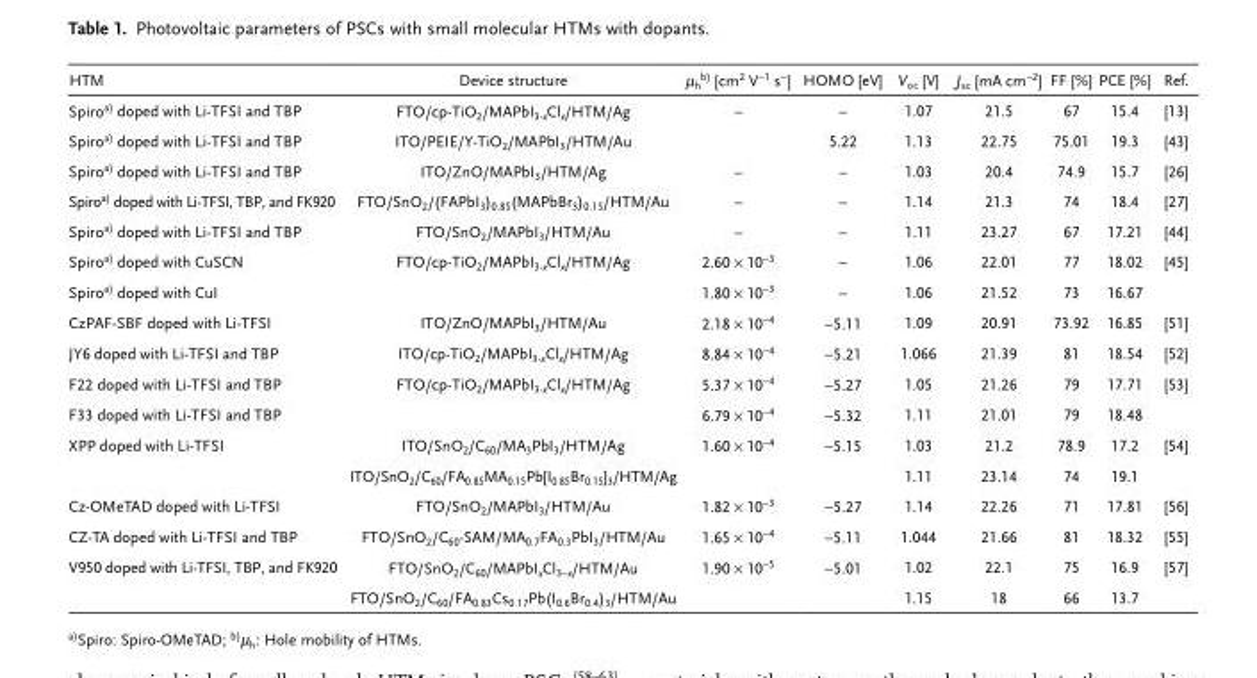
<table><thead><tr><td>HTM</td><td>Device structure</td><td>µ<sub>h</sub>b) [cm<sup>2</sup> V<sup>−1</sup> s<sup>−</sup>]</td><td>HOMO [eV]</td><td>V<sub>oc</sub> [V]</td><td>J<sub>sc</sub> [mA cm<sup>−2</sup>]</td><td>FF [%]</td><td>PCE [%]</td><td>Ref.</td></tr></thead><tbody><tr><td>Spiroa) doped with Li-TFSI and TBP</td><td>FTO/cp-TiO<sub>2</sub>/MAPbI<sub>3-x</sub>Cl<sub>x</sub>/HTM/Ag</td><td>–</td><td>–</td><td>1.07</td><td>21.5</td><td>67</td><td>15.4</td><td>[13]</td></tr><tr><td>Spiroa) doped with Li-TFSI and TBP</td><td>ITO/PEIE/Y-TiO<sub>2</sub>/MAPbI<sub>3</sub>/HTM/Au</td><td></td><td>5.22</td><td>1.13</td><td>22.75</td><td>75.01</td><td>19.3</td><td>[43]</td></tr><tr><td>Spiroa) doped with Li-TFSI and TBP</td><td>ITO/ZnO/MAPbI<sub>3</sub>/HTM/Ag</td><td>–</td><td>–</td><td>1.03</td><td>20.4</td><td>74.9</td><td>15.7</td><td>[26]</td></tr><tr><td>Spiroa) doped with Li-TFSI, TBP, and FK920</td><td>FTO/SnO<sub>2</sub>/(FAPbI<sub>3</sub>)<sub>0.85</sub>(MAPbBr<sub>3</sub>)<sub>0.15</sub>/HTM/Au</td><td>–</td><td>–</td><td>1.14</td><td>21.3</td><td>74</td><td>18.4</td><td>[27]</td></tr><tr><td>Spiroa) doped with Li-TFSI and TBP</td><td>FTO/SnO<sub>2</sub>/MAPbI<sub>3</sub>/HTM/Au</td><td>–</td><td>–</td><td>1.11</td><td>23.27</td><td>67</td><td>17.21</td><td>[44]</td></tr><tr><td>Spiroa) doped with CuSCN</td><td>FTO/cp-TiO<sub>2</sub>/MAPbI<sub>3-x</sub>Cl<sub>x</sub>/HTM/Ag</td><td>2.60 × 10<sup>−3</sup></td><td>–</td><td>1.06</td><td>22.01</td><td>77</td><td>18.02</td><td>[45]</td></tr><tr><td>Spiroa) doped with CuI</td><td></td><td>1.80 × 10<sup>−3</sup></td><td>–</td><td>1.06</td><td>21.52</td><td>73</td><td>16.67</td><td></td></tr><tr><td>CzPAF-SBF doped with Li-TFSI</td><td>ITO/ZnO/MAPbI<sub>3</sub>/HTM/Au</td><td>2.18 × 10<sup>−4</sup></td><td>−5.11</td><td>1.09</td><td>20.91</td><td>73.92</td><td>16.85</td><td>[51]</td></tr><tr><td>JY6 doped with Li-TFSI and TBP</td><td>ITO/cp-TiO<sub>2</sub>/MAPbI<sub>3-x</sub>Cl<sub>x</sub>/HTM/Ag</td><td>8.84 × 10<sup>−4</sup></td><td>−5.21</td><td>1.066</td><td>21.39</td><td>81</td><td>18.54</td><td>[52]</td></tr><tr><td>F22 doped with Li-TFSI and TBP</td><td>FTO/cp-TiO<sub>2</sub>/MAPbI<sub>3-x</sub>Cl<sub>x</sub>/HTM/Ag</td><td>5.37 × 10<sup>−4</sup></td><td>−5.27</td><td>1.05</td><td>21.26</td><td>79</td><td>17.71</td><td>[53]</td></tr><tr><td>F33 doped with Li-TFSI and TBP</td><td></td><td>6.79 × 10<sup>−4</sup></td><td>−5.32</td><td>1.11</td><td>21.01</td><td>79</td><td>18.48</td><td></td></tr><tr><td rowspan="2">XPP doped with Li-TFSI</td><td>ITO/SnO<sub>2</sub>/C<sub>60</sub>/MA<sub>3</sub>PbI<sub>3</sub>/HTM/Ag</td><td>1.60 × 10<sup>−4</sup></td><td>−5.15</td><td>1.03</td><td>21.2</td><td>78.9</td><td>17.2</td><td>[54]</td></tr><tr><td>ITO/SnO<sub>2</sub>/C<sub>60</sub>/FA<sub>0.85</sub>MA<sub>0.15</sub>Pb[I<sub>0.85</sub>Br<sub>0.15</sub>]<sub>3</sub>/HTM/Ag</td><td></td><td></td><td>1.11</td><td>23.14</td><td>74</td><td>19.1</td><td></td></tr><tr><td>Cz-OMeTAD doped with Li-TFSI</td><td>FTO/SnO<sub>2</sub>/MAPbI<sub>3</sub>/HTM/Au</td><td>1.82 × 10<sup>−3</sup></td><td>−5.27</td><td>1.14</td><td>22.26</td><td>71</td><td>17.81</td><td>[56]</td></tr><tr><td>CZ-TA doped with Li-TFSI and TBP</td><td>FTO/SnO<sub>2</sub>/C<sub>60</sub>-SAM/MA<sub>0.7</sub>FA<sub>0.3</sub>PbI<sub>3</sub>/HTM/Au</td><td>1.65 × 10<sup>−4</sup></td><td>−5.11</td><td>1.044</td><td>21.66</td><td>81</td><td>18.32</td><td>[55]</td></tr><tr><td rowspan="2">V950 doped with Li-TFSI, TBP, and FK920</td><td>FTO/SnO<sub>2</sub>/C<sub>60</sub>/MAPbI<sub>x</sub>Cl<sub>3−x</sub>/HTM/Au</td><td>1.90 × 10<sup>−5</sup></td><td>−5.01</td><td>1.02</td><td>22.1</td><td>75</td><td>16.9</td><td>[57]</td></tr><tr><td>FTO/SnO<sub>2</sub>/C<sub>60</sub>/FA<sub>0.83</sub>Cs<sub>0.17</sub>Pb(I<sub>0.6</sub>Br<sub>0.4</sub>)<sub>3</sub>/HTM/Au</td><td></td><td></td><td>1.15</td><td>18</td><td>66</td><td>13.7</td><td></td></tr></tbody></table>